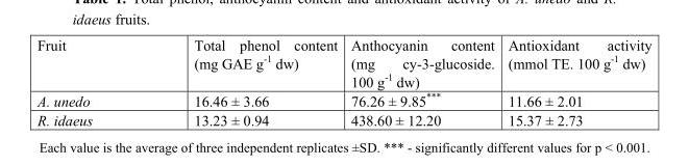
<table><thead><tr><td>Fruit</td><td>Total phenol content (mg GAE g<sup>-1</sup> dw)</td><td>Anthocyanin content (mg cy-3-glucoside. 100 g<sup>-1</sup> dw)</td><td>Antioxidant activity (mmol TE. 100 g<sup>-1</sup> dw)</td></tr></thead><tbody><tr><td>A. unedo</td><td>16.46 ± 3.66</td><td>76.26 ± 9.85***</td><td>11.66 ± 2.01</td></tr><tr><td>R. idaeus</td><td>13.23 ± 0.94</td><td>438.60 ± 12.20</td><td>15.37 ± 2.73</td></tr></tbody></table>